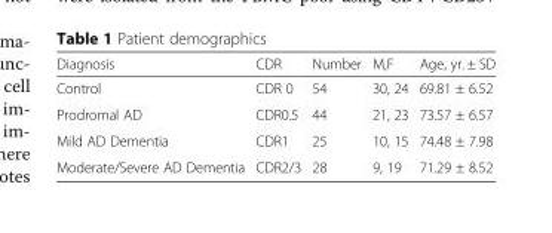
<table><thead><tr><td>Diagnosis</td><td>CDR</td><td>Number</td><td>M,F</td><td>Age, yr. ± SD</td></tr></thead><tbody><tr><td>Control</td><td>CDR 0</td><td>54</td><td>30, 24</td><td>69.81 ± 6.52</td></tr><tr><td>Prodromal AD</td><td>CDR0.5</td><td>44</td><td>21, 23</td><td>73.57 ± 6.57</td></tr><tr><td>Mild AD Dementia</td><td>CDR1</td><td>25</td><td>10, 15</td><td>74.48 ± 7.98</td></tr><tr><td>Moderate/Severe AD Dementia</td><td>CDR2/3</td><td>28</td><td>9, 19</td><td>71.29 ± 8.52</td></tr></tbody></table>